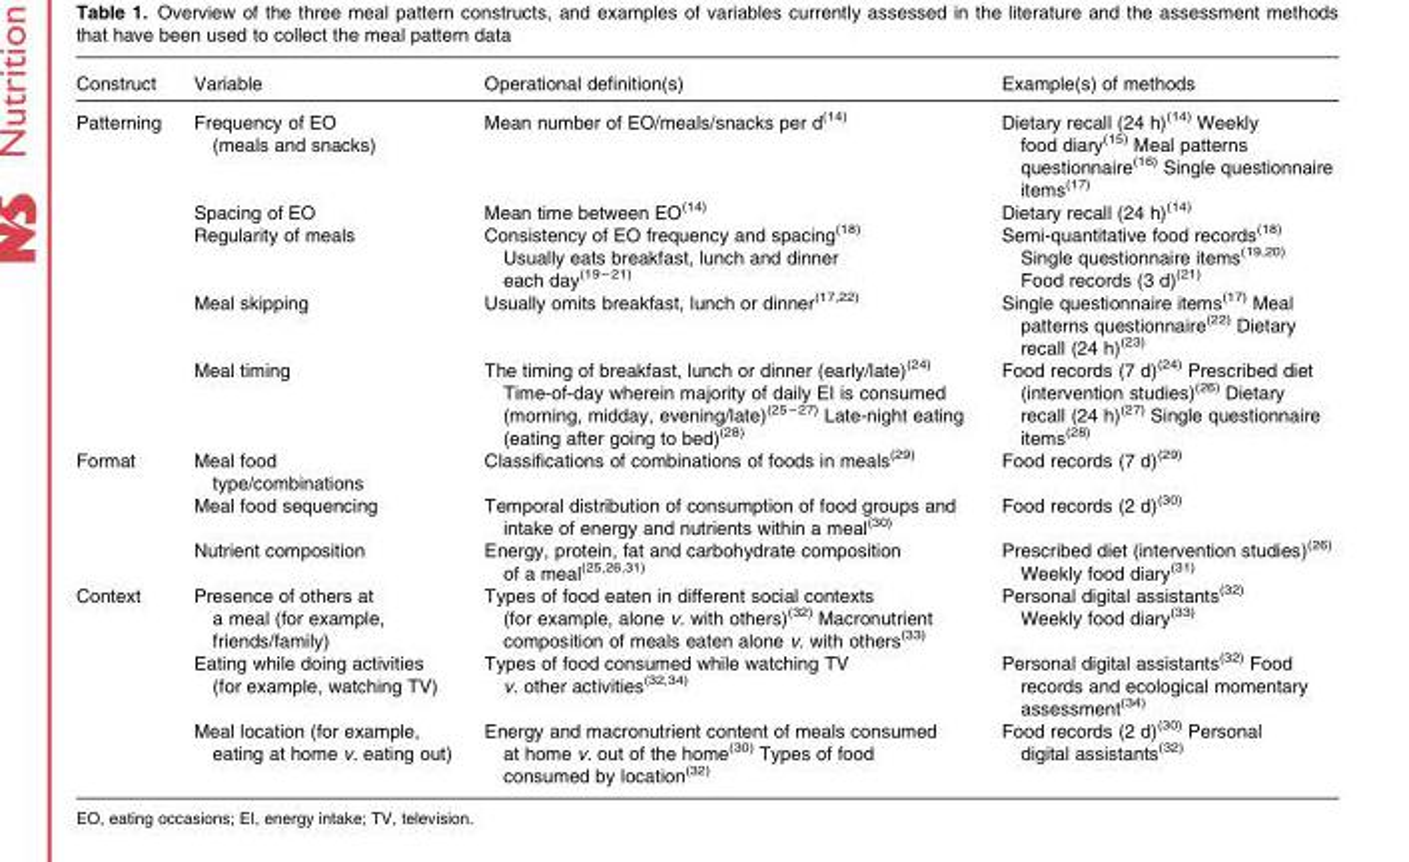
<table><thead><tr><td>Construct</td><td>Variable</td><td>Operational definition(s)</td><td>Example(s) of methods</td></tr></thead><tbody><tr><td rowspan="5">Patterning</td><td>Frequency of EO (meals and snacks)</td><td>Mean number of EO/meals/snacks per d<sup>(14)</sup></td><td>Dietary recall (24 h)<sup>(14)</sup> Weekly food diary<sup>(15)</sup> Meal patterns questionnaire<sup>(16)</sup> Single questionnaire items<sup>(17)</sup></td></tr><tr><td>Spacing of EO</td><td>Mean time between EO<sup>(14)</sup></td><td>Dietary recall (24 h)<sup>(14)</sup></td></tr><tr><td>Regularity of meals</td><td>Consistency of EO frequency and spacing<sup>(18)</sup> Usually eats breakfast, lunch and dinner each day<sup>(19–21)</sup></td><td>Semi-quantitative food records<sup>(18)</sup> Single questionnaire items<sup>(19,20)</sup> Food records (3 d)<sup>(21)</sup></td></tr><tr><td>Meal skipping</td><td>Usually omits breakfast, lunch or dinner<sup>(17,22)</sup></td><td>Single questionnaire items<sup>(17)</sup> Meal patterns questionnaire<sup>(22)</sup> Dietary recall (24 h)<sup>(23)</sup></td></tr><tr><td>Meal timing</td><td>The timing of breakfast, lunch or dinner (early/late)<sup>(24)</sup> Time-of-day wherein majority of daily EI is consumed (morning, midday, evening/late)<sup>(25–27)</sup> Late-night eating (eating after going to bed)<sup>(28)</sup></td><td>Food records (7 d)<sup>(24)</sup> Prescribed diet (intervention studies)<sup>(26)</sup> Dietary recall (24 h)<sup>(27)</sup> Single questionnaire items<sup>(28)</sup></td></tr><tr><td rowspan="3">Format</td><td>Meal food type/combinations</td><td>Classifications of combinations of foods in meals<sup>(29)</sup></td><td>Food records (7 d)<sup>(29)</sup></td></tr><tr><td>Meal food sequencing</td><td>Temporal distribution of consumption of food groups and intake of energy and nutrients within a meal<sup>(30)</sup></td><td>Food records (2 d)<sup>(30)</sup></td></tr><tr><td>Nutrient composition</td><td>Energy, protein, fat and carbohydrate composition of a meal<sup>(25,26,31)</sup></td><td>Prescribed diet (intervention studies)<sup>(26)</sup> Weekly food diary<sup>(31)</sup></td></tr><tr><td rowspan="3">Context</td><td>Presence of others at a meal (for example, friends/family)</td><td>Types of food eaten in different social contexts (for example, alone v. with others)<sup>(32)</sup> Macronutrient composition of meals eaten alone v. with others<sup>(33)</sup></td><td>Personal digital assistants<sup>(32)</sup> Weekly food diary<sup>(33)</sup></td></tr><tr><td>Eating while doing activities (for example, watching TV)</td><td>Types of food consumed while watching TV v. other activities<sup>(32,34)</sup></td><td>Personal digital assistants<sup>(32)</sup> Food records and ecological momentary assessment<sup>(34)</sup></td></tr><tr><td>Meal location (for example, eating at home v. eating out)</td><td>Energy and macronutrient content of meals consumed at home v. out of the home<sup>(30)</sup> Types of food consumed by location<sup>(32)</sup></td><td>Food records (2 d)<sup>(30)</sup> Personal digital assistants<sup>(32)</sup></td></tr></tbody></table>